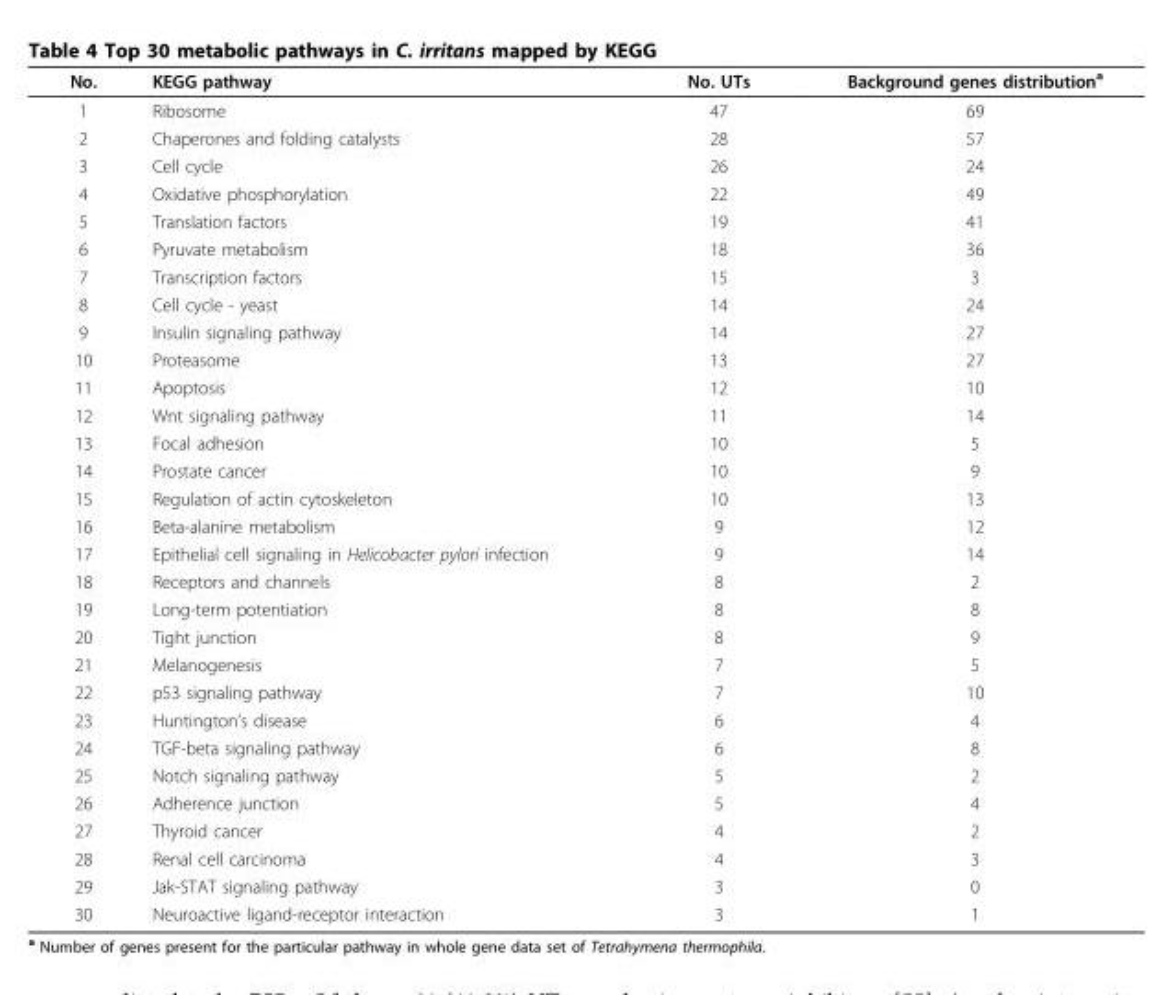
<table><thead><tr><td>No.</td><td>KEGG pathway</td><td>No. UTs</td><td>Background genes distribution<sup>a</sup></td></tr></thead><tbody><tr><td>1</td><td>Ribosome</td><td>47</td><td>69</td></tr><tr><td>2</td><td>Chaperones and folding catalysts</td><td>28</td><td>57</td></tr><tr><td>3</td><td>Cell cycle</td><td>26</td><td>24</td></tr><tr><td>4</td><td>Oxidative phosphorylation</td><td>22</td><td>49</td></tr><tr><td>5</td><td>Translation factors</td><td>19</td><td>41</td></tr><tr><td>6</td><td>Pyruvate metabolism</td><td>18</td><td>36</td></tr><tr><td>7</td><td>Transcription factors</td><td>15</td><td>3</td></tr><tr><td>8</td><td>Cell cycle - yeast</td><td>14</td><td>24</td></tr><tr><td>9</td><td>Insulin signaling pathway</td><td>14</td><td>27</td></tr><tr><td>10</td><td>Proteasome</td><td>13</td><td>27</td></tr><tr><td>11</td><td>Apoptosis</td><td>12</td><td>10</td></tr><tr><td>12</td><td>Wnt signaling pathway</td><td>11</td><td>14</td></tr><tr><td>13</td><td>Focal adhesion</td><td>10</td><td>5</td></tr><tr><td>14</td><td>Prostate cancer</td><td>10</td><td>9</td></tr><tr><td>15</td><td>Regulation of actin cytoskeleton</td><td>10</td><td>13</td></tr><tr><td>16</td><td>Beta-alanine metabolism</td><td>9</td><td>12</td></tr><tr><td>17</td><td>Epithelial cell signaling in Helicobacter pylori infection</td><td>9</td><td>14</td></tr><tr><td>18</td><td>Receptors and channels</td><td>8</td><td>2</td></tr><tr><td>19</td><td>Long-term potentiation</td><td>8</td><td>8</td></tr><tr><td>20</td><td>Tight junction</td><td>8</td><td>9</td></tr><tr><td>21</td><td>Melanogenesis</td><td>7</td><td>5</td></tr><tr><td>22</td><td>p53 signaling pathway</td><td>7</td><td>10</td></tr><tr><td>23</td><td>Huntington’s disease</td><td>6</td><td>4</td></tr><tr><td>24</td><td>TGF-beta signaling pathway</td><td>6</td><td>8</td></tr><tr><td>25</td><td>Notch signaling pathway</td><td>5</td><td>2</td></tr><tr><td>26</td><td>Adherence junction</td><td>5</td><td>4</td></tr><tr><td>27</td><td>Thyroid cancer</td><td>4</td><td>2</td></tr><tr><td>28</td><td>Renal cell carcinoma</td><td>4</td><td>3</td></tr><tr><td>29</td><td>Jak-STAT signaling pathway</td><td>3</td><td>0</td></tr><tr><td>30</td><td>Neuroactive ligand-receptor interaction</td><td>3</td><td>1</td></tr></tbody></table>